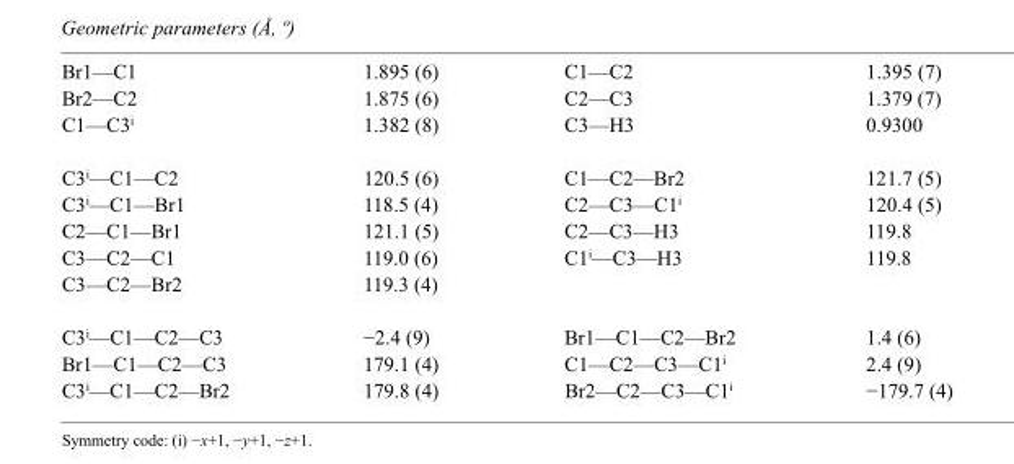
<table><tbody><tr><td>Br1—C1</td><td>1.895 (6)</td><td>C1—C2</td><td>1.395 (7)</td></tr><tr><td>Br2—C2</td><td>1.875 (6)</td><td>C2—C3</td><td>1.379 (7)</td></tr><tr><td>C1—C3<sup>i</sup></td><td>1.382 (8)</td><td>C3—H3</td><td>0.9300</td></tr><tr><td>C3<sup>i</sup>—C1—C2</td><td>120.5 (6)</td><td>C1—C2—Br2</td><td>121.7 (5)</td></tr><tr><td>C3<sup>i</sup>—C1—Br1</td><td>118.5 (4)</td><td>C2—C3—C1<sup>i</sup></td><td>120.4 (5)</td></tr><tr><td>C2—C1—Br1</td><td>121.1 (5)</td><td>C2—C3—H3</td><td>119.8</td></tr><tr><td>C3—C2—C1</td><td>119.0 (6)</td><td>C1<sup>i</sup>—C3—H3</td><td>119.8</td></tr><tr><td>C3—C2—Br2</td><td>119.3 (4)</td><td></td><td></td></tr><tr><td>C3<sup>i</sup>—C1—C2—C3</td><td>−2.4 (9)</td><td>Br1—C1—C2—Br2</td><td>1.4 (6)</td></tr><tr><td>Br1—C1—C2—C3</td><td>179.1 (4)</td><td>C1—C2—C3—C1<sup>i</sup></td><td>2.4 (9)</td></tr><tr><td>C3<sup>i</sup>—C1—C2—Br2</td><td>179.8 (4)</td><td>Br2—C2—C3—C1<sup>i</sup></td><td>−179.7 (4)</td></tr></tbody></table>